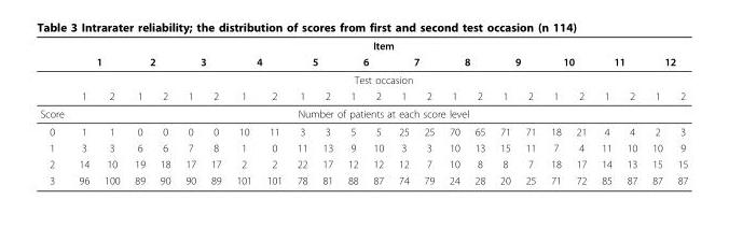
<table><thead><tr><td rowspan="4"></td><td colspan="24">Item</td></tr><tr><td colspan="2">1</td><td colspan="2">2</td><td colspan="2">3</td><td colspan="2">4</td><td colspan="2">5</td><td colspan="2">6</td><td colspan="2">7</td><td colspan="2">8</td><td colspan="2">9</td><td colspan="2">10</td><td colspan="2">11</td><td colspan="2">12</td></tr><tr><td colspan="24">Test occasion</td></tr><tr><td>1</td><td>2</td><td>1</td><td>2</td><td>1</td><td>2</td><td>1</td><td>2</td><td>1</td><td>2</td><td>1</td><td>2</td><td>1</td><td>2</td><td>1</td><td>2</td><td>1</td><td>2</td><td>1</td><td>2</td><td>1</td><td>2</td><td>1</td><td>2</td></tr></thead><tbody><tr><td>Score</td><td colspan="24">Number of patients at each score level</td></tr><tr><td>0</td><td>1</td><td>1</td><td>0</td><td>0</td><td>0</td><td>0</td><td>10</td><td>11</td><td>3</td><td>3</td><td>5</td><td>5</td><td>25</td><td>25</td><td>70</td><td>65</td><td>71</td><td>71</td><td>18</td><td>21</td><td>4</td><td>4</td><td>2</td><td>3</td></tr><tr><td>1</td><td>3</td><td>3</td><td>6</td><td>6</td><td>7</td><td>8</td><td>1</td><td>0</td><td>11</td><td>13</td><td>9</td><td>10</td><td>3</td><td>3</td><td>10</td><td>13</td><td>15</td><td>11</td><td>7</td><td>4</td><td>11</td><td>10</td><td>10</td><td>9</td></tr><tr><td>2</td><td>14</td><td>10</td><td>19</td><td>18</td><td>17</td><td>17</td><td>2</td><td>2</td><td>22</td><td>17</td><td>12</td><td>12</td><td>12</td><td>7</td><td>10</td><td>8</td><td>8</td><td>7</td><td>18</td><td>17</td><td>14</td><td>13</td><td>15</td><td>15</td></tr><tr><td>3</td><td>96</td><td>100</td><td>89</td><td>90</td><td>90</td><td>89</td><td>101</td><td>101</td><td>78</td><td>81</td><td>88</td><td>87</td><td>74</td><td>79</td><td>24</td><td>28</td><td>20</td><td>25</td><td>71</td><td>72</td><td>85</td><td>87</td><td>87</td><td>87</td></tr></tbody></table>